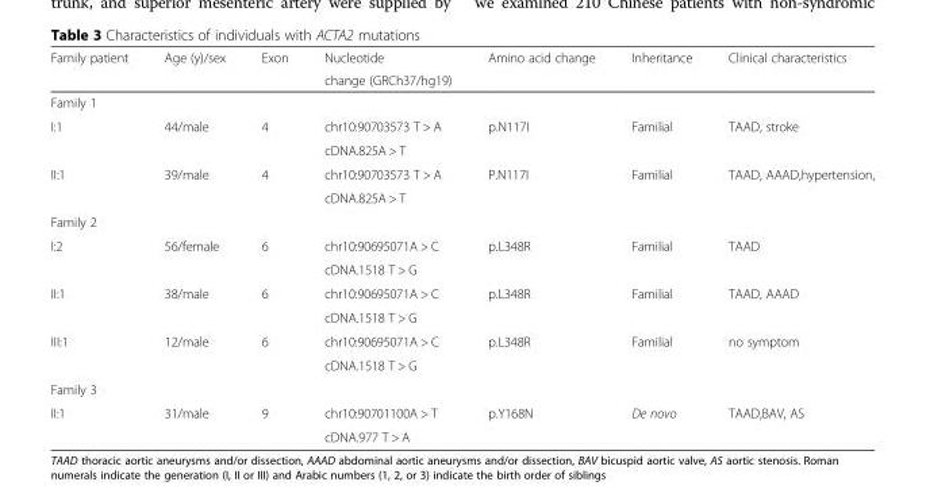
<table><thead><tr><td rowspan="2">Family patient</td><td rowspan="2">Age (y)/sex</td><td rowspan="2">Exon</td><td rowspan="2">Nucleotide change (GRCh37/hg19)</td><td rowspan="2">Amino acid change</td><td rowspan="2">Inheritance</td><td rowspan="2">Clinical characteristics</td></tr><tr></tr></thead><tbody><tr><td colspan="7">Family 1</td></tr><tr><td rowspan="2">I:1</td><td rowspan="2">44/male</td><td rowspan="2">4</td><td>chr10:90703573 T &gt; A</td><td rowspan="2">p.N117I</td><td rowspan="2">Familial</td><td rowspan="2">TAAD, stroke</td></tr><tr><td>cDNA.825A &gt; T</td></tr><tr><td rowspan="2">II:1</td><td rowspan="2">39/male</td><td rowspan="2">4</td><td>chr10:90703573 T &gt; A</td><td rowspan="2">P.N117I</td><td rowspan="2">Familial</td><td rowspan="2">TAAD, AAAD,hypertension,</td></tr><tr><td>cDNA.825A &gt; T</td></tr><tr><td colspan="7">Family 2</td></tr><tr><td rowspan="2">I:2</td><td rowspan="2">56/female</td><td rowspan="2">6</td><td>chr10:90695071A &gt; C</td><td rowspan="2">p.L348R</td><td rowspan="2">Familial</td><td rowspan="2">TAAD</td></tr><tr><td>cDNA.1518 T &gt; G</td></tr><tr><td rowspan="2">II:1</td><td rowspan="2">38/male</td><td rowspan="2">6</td><td>chr10:90695071A &gt; C</td><td rowspan="2">p.L348R</td><td rowspan="2">Familial</td><td rowspan="2">TAAD, AAAD</td></tr><tr><td>cDNA.1518 T &gt; G</td></tr><tr><td rowspan="2">III:1</td><td rowspan="2">12/male</td><td rowspan="2">6</td><td>chr10:90695071A &gt; C</td><td rowspan="2">p.L348R</td><td rowspan="2">Familial</td><td rowspan="2">no symptom</td></tr><tr><td>cDNA.1518 T &gt; G</td></tr><tr><td colspan="7">Family 3</td></tr><tr><td rowspan="2">II:1</td><td rowspan="2">31/male</td><td rowspan="2">9</td><td>chr10:90701100A &gt; T</td><td rowspan="2">p.Y168N</td><td rowspan="2">De novo</td><td rowspan="2">TAAD,BAV, AS</td></tr><tr><td>cDNA.977 T &gt; A</td></tr></tbody></table>